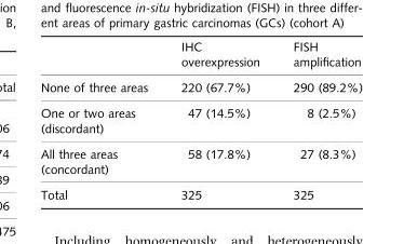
<table><thead><tr><td></td><td>IHC overexpression</td><td>FISH amplification</td></tr></thead><tbody><tr><td>None of three areas</td><td>220 (67.7%)</td><td>290 (89.2%)</td></tr><tr><td>One or two areas (discordant)</td><td>47 (14.5%)</td><td>8 (2.5%)</td></tr><tr><td>All three areas (concordant)</td><td>58 (17.8%)</td><td>27 (8.3%)</td></tr><tr><td>Total</td><td>325</td><td>325</td></tr></tbody></table>